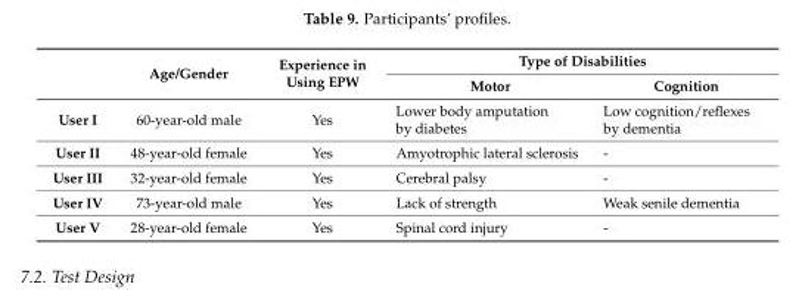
<table><thead><tr><td rowspan="2"></td><td rowspan="2">Age/Gender</td><td rowspan="2">Experience in Using EPW</td><td colspan="2">Type of Disabilities</td></tr><tr><td>Motor</td><td>Cognition</td></tr></thead><tbody><tr><td>User I</td><td>60-year-old male</td><td>Yes</td><td>Lower body amputation by diabetes</td><td>Low cognition/reflexes by dementia</td></tr><tr><td>User II</td><td>48-year-old female</td><td>Yes</td><td>Amyotrophic lateral sclerosis</td><td>-</td></tr><tr><td>User III</td><td>32-year-old female</td><td>Yes</td><td>Cerebral palsy</td><td>-</td></tr><tr><td>User IV</td><td>73-year-old male</td><td>Yes</td><td>Lack of strength</td><td>Weak senile dementia</td></tr><tr><td>User V</td><td>28-year-old female</td><td>Yes</td><td>Spinal cord injury</td><td>-</td></tr></tbody></table>